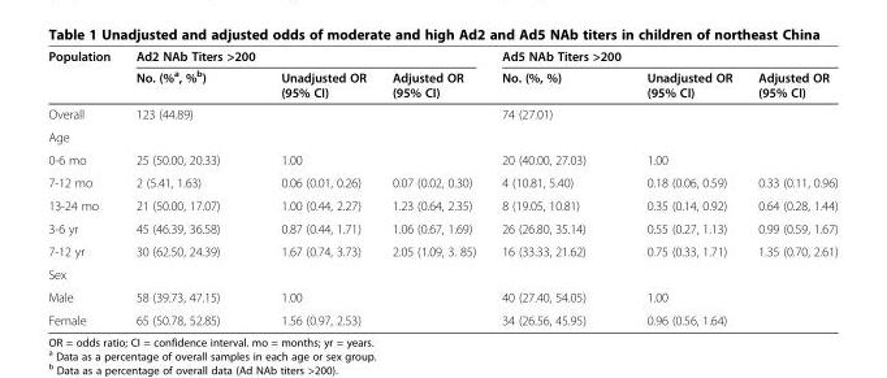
<table><thead><tr><td rowspan="2">Population</td><td rowspan="2">Ad2 NAb Titers &gt;200 No. (%<sup>a</sup>, %<sup>b</sup>)</td><td rowspan="2">Unadjusted OR (95% CI)</td><td rowspan="2">Adjusted OR (95% CI)</td><td rowspan="2">Ad5 NAb Titers &gt;200 No. (%, %)</td><td rowspan="2">Unadjusted OR (95% CI)</td><td rowspan="2">Adjusted OR (95% CI)</td></tr><tr></tr></thead><tbody><tr><td>Overall</td><td>123 (44.89)</td><td></td><td></td><td>74 (27.01)</td><td></td><td></td></tr><tr><td colspan="7">Age</td></tr><tr><td>0-6 mo</td><td>25 (50.00, 20.33)</td><td>1.00</td><td></td><td>20 (40.00, 27.03)</td><td>1.00</td><td></td></tr><tr><td>7-12 mo</td><td>2 (5.41, 1.63)</td><td>0.06 (0.01, 0.26)</td><td>0.07 (0.02, 0.30)</td><td>4 (10.81, 5.40)</td><td>0.18 (0.06, 0.59)</td><td>0.33 (0.11, 0.96)</td></tr><tr><td>13-24 mo</td><td>21 (50.00, 17.07)</td><td>1.00 (0.44, 2.27)</td><td>1.23 (0.64, 2.35)</td><td>8 (19.05, 10.81)</td><td>0.35 (0.14, 0.92)</td><td>0.64 (0.28, 1.44)</td></tr><tr><td>3-6 yr</td><td>45 (46.39, 36.58)</td><td>0.87 (0.44, 1.71)</td><td>1.06 (0.67, 1.69)</td><td>26 (26.80, 35.14)</td><td>0.55 (0.27, 1.13)</td><td>0.99 (0.59, 1.67)</td></tr><tr><td>7-12 yr</td><td>30 (62.50, 24.39)</td><td>1.67 (0.74, 3.73)</td><td>2.05 (1.09, 3. 85)</td><td>16 (33.33, 21.62)</td><td>0.75 (0.33, 1.71)</td><td>1.35 (0.70, 2.61)</td></tr><tr><td colspan="7">Sex</td></tr><tr><td>Male</td><td>58 (39.73, 47.15)</td><td>1.00</td><td></td><td>40 (27.40, 54.05)</td><td>1.00</td><td></td></tr><tr><td>Female</td><td>65 (50.78, 52.85)</td><td>1.56 (0.97, 2.53)</td><td></td><td>34 (26.56, 45.95)</td><td colspan="2">0.96 (0.56, 1.64)</td></tr></tbody></table>